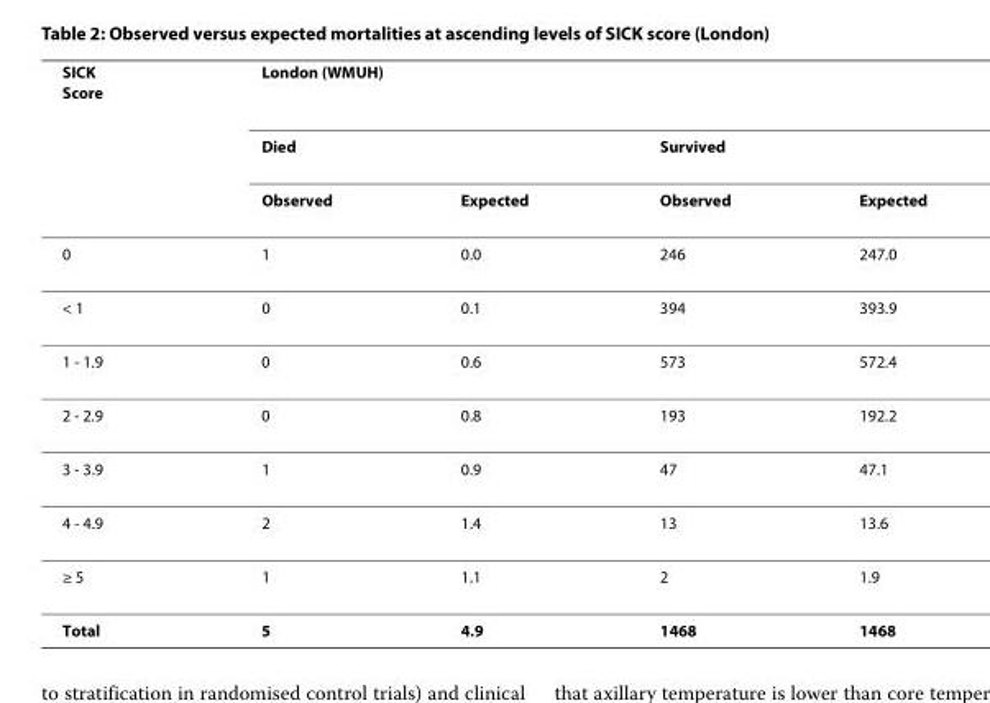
<table><thead><tr><td rowspan="3">SICK Score</td><td colspan="4">London (WMUH)</td></tr><tr><td colspan="2">Died</td><td colspan="2">Survived</td></tr><tr><td>Observed</td><td>Expected</td><td>Observed</td><td>Expected</td></tr></thead><tbody><tr><td>0</td><td>1</td><td>0.0</td><td>246</td><td>247.0</td></tr><tr><td>&lt; 1</td><td>0</td><td>0.1</td><td>394</td><td>393.9</td></tr><tr><td>1 - 1.9</td><td>0</td><td>0.6</td><td>573</td><td>572.4</td></tr><tr><td>2 - 2.9</td><td>0</td><td>0.8</td><td>193</td><td>192.2</td></tr><tr><td>3 - 3.9</td><td>1</td><td>0.9</td><td>47</td><td>47.1</td></tr><tr><td>4 - 4.9</td><td>2</td><td>1.4</td><td>13</td><td>13.6</td></tr><tr><td>≥ 5</td><td>1</td><td>1.1</td><td>2</td><td>1.9</td></tr><tr><td>Total</td><td>5</td><td>4.9</td><td>1468</td><td>1468</td></tr></tbody></table>